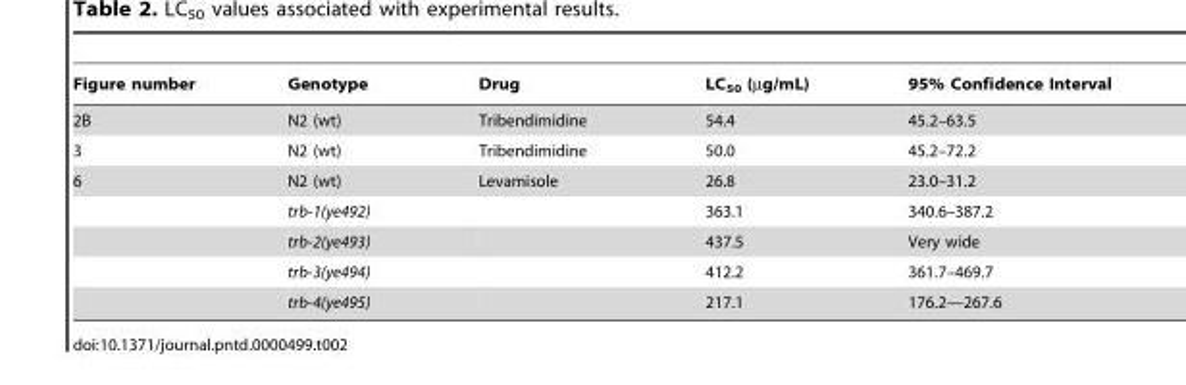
<table><thead><tr><td>Figure number</td><td>Genotype</td><td>Drug</td><td>LC<sub>50</sub> (µg/mL)</td><td>95% Confidence Interval</td></tr></thead><tbody><tr><td>2B</td><td>N2 (wt)</td><td>Tribendimidine</td><td>54.4</td><td>45.2–63.5</td></tr><tr><td>3</td><td>N2 (wt)</td><td>Tribendimidine</td><td>50.0</td><td>45.2–72.2</td></tr><tr><td rowspan="5">6</td><td>N2 (wt)</td><td>Levamisole</td><td>26.8</td><td>23.0–31.2</td></tr><tr><td>trb-1(ye492)</td><td></td><td>363.1</td><td>340.6–387.2</td></tr><tr><td>trb-2(ye493)</td><td></td><td>437.5</td><td>Very wide</td></tr><tr><td>trb-3(ye494)</td><td></td><td>412.2</td><td>361.7–469.7</td></tr><tr><td>trb-4(ye495)</td><td></td><td>217.1</td><td>176.2—267.6</td></tr></tbody></table>